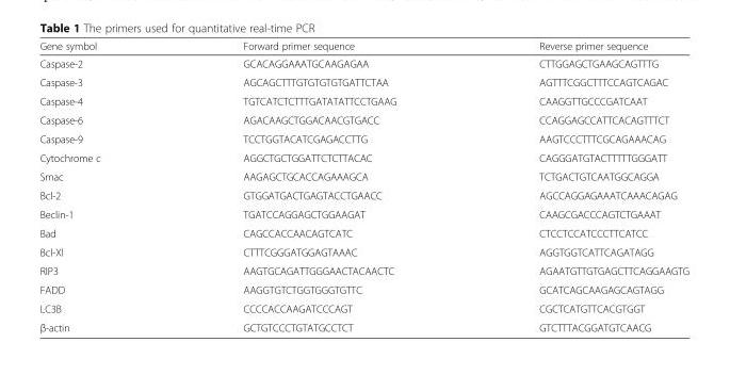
<table><thead><tr><td>Gene symbol</td><td>Forward primer sequence</td><td>Reverse primer sequence</td></tr></thead><tbody><tr><td>Caspase-2</td><td>GCACAGGAAATGCAAGAGAA</td><td>CTTGGAGCTGAAGCAGTTTG</td></tr><tr><td>Caspase-3</td><td>AGCAGCTTTGTGTGTGTGATTCTAA</td><td>AGTTTCGGCTTTCCAGTCAGAC</td></tr><tr><td>Caspase-4</td><td>TGTCATCTCTTTGATATATTCCTGAAG</td><td>CAAGGTTGCCCGATCAAT</td></tr><tr><td>Caspase-6</td><td>AGACAAGCTGGACAACGTGACC</td><td>CCAGGAGCCATTCACAGTTTCT</td></tr><tr><td>Caspase-9</td><td>TCCTGGTACATCGAGACCTTG</td><td>AAGTCCCTTTCGCAGAAACAG</td></tr><tr><td>Cytochrome c</td><td>AGGCTGCTGGATTCTCTTACAC</td><td>CAGGGATGTACTTTTTGGGATT</td></tr><tr><td>Smac</td><td>AAGAGCTGCACCAGAAAGCA</td><td>TCTGACTGTCAATGGCAGGA</td></tr><tr><td>Bcl-2</td><td>GTGGATGACTGAGTACCTGAACC</td><td>AGCCAGGAGAAATCAAACAGAG</td></tr><tr><td>Beclin-1</td><td>TGATCCAGGAGCTGGAAGAT</td><td>CAAGCGACCCAGTCTGAAAT</td></tr><tr><td>Bad</td><td>CAGCCACCAACAGTCATC</td><td>CTCCTCCATCCCTTCATCC</td></tr><tr><td>Bcl-Xl</td><td>CTTTCGGGATGGAGTAAAC</td><td>AGGTGGTCATTCAGATAGG</td></tr><tr><td>RIP3</td><td>AAGTGCAGATTGGGAACTACAACTC</td><td>AGAATGTTGTGAGCTTCAGGAAGTG</td></tr><tr><td>FADD</td><td>AAGGTGTCTGGTGGGTGTTC</td><td>GCATCAGCAAGAGCAGTAGG</td></tr><tr><td>LC3B</td><td>CCCCACCAAGATCCCAGT</td><td>CGCTCATGTTCACGTGGT</td></tr><tr><td>β-actin</td><td>GCTGTCCCTGTATGCCTCT</td><td>GTCTTTACGGATGTCAACG</td></tr></tbody></table>